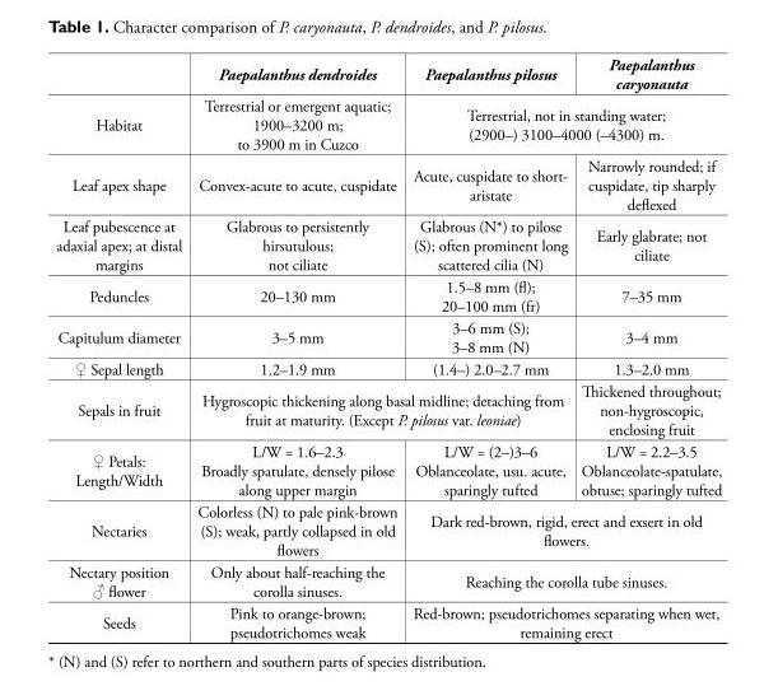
<table><thead><tr><td></td><td>Paepalanthus dendroides</td><td>Paepalanthus pilosus</td><td>Paepalanthus caryonauta</td></tr></thead><tbody><tr><td>Habitat</td><td>Terrestrial or emergent aquatic; 1900–3200 m; to 3900 m in Cuzco</td><td colspan="2">Terrestrial, not in standing water; (2900–) 3100–4000 (–4300) m.</td></tr><tr><td>Leaf apex shape</td><td>Convex-acute to acute, cuspidate</td><td>Acute, cuspidate to short- aristate</td><td>Narrowly rounded; if cuspidate, tip sharply defl exed</td></tr><tr><td>Leaf pubescence at adaxial apex; at distal margins</td><td>Glabrous to persistently hirsutulous; not ciliate</td><td>Glabrous (N*) to pilose (S); often prominent long scattered cilia (N)</td><td>Early glabrate; not ciliate</td></tr><tr><td>Peduncles</td><td>20–130 mm</td><td>1.5–8 mm (fl ); 20–100 mm (fr)</td><td>7–35 mm</td></tr><tr><td>Capitulum diameter</td><td>3–5 mm</td><td>3–6 mm (S); 3–8 mm (N)</td><td>3–4 mm</td></tr><tr><td>♀ Sepal length</td><td>1.2–1.9 mm</td><td>(1.4–) 2.0–2.7 mm</td><td>1.3–2.0 mm</td></tr><tr><td>Sepals in fruit</td><td colspan="2">Hygroscopic thickening along basal midline; detaching from fruit at maturity. (Except P. pilosus var. leoniae)</td><td>Th ickened throughout; non-hygroscopic, enclosing fruit</td></tr><tr><td>♀ Petals: Length/Width</td><td>L/W = 1.6–2.3 Broadly spatulate, densely pilose along upper margin</td><td>L/W = (2–)3–6 Oblanceolate, usu. acute, sparingly tufted</td><td>L/W = 2.2–3.5 Oblanceolate-spatulate, obtuse; sparingly tufted</td></tr><tr><td>Nectaries</td><td>Colorless (N) to pale pink-brown (S); weak, partly collapsed in old fl owers</td><td colspan="2">Dark red-brown, rigid, erect and exsert in old fl owers.</td></tr><tr><td>Nectary position ♂ fl ower</td><td>Only about half-reaching the corolla sinuses.</td><td colspan="2">Reaching the corolla tube sinuses.</td></tr><tr><td>Seeds</td><td>Pink to orange-brown; pseudotrichomes weak</td><td colspan="2">Red-brown; pseudotrichomes separating when wet, remaining erect</td></tr></tbody></table>